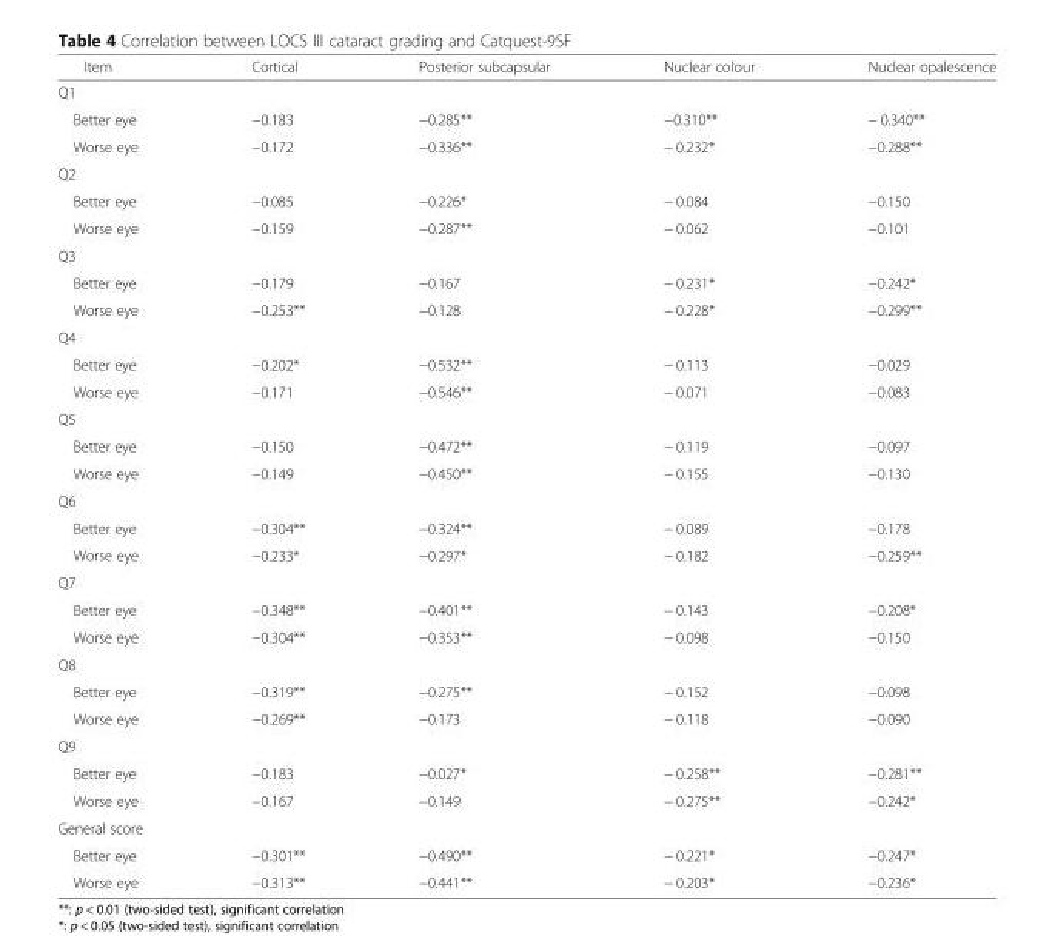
<table><thead><tr><td>Item</td><td>Cortical</td><td>Posterior subcapsular</td><td>Nuclear colour</td><td>Nuclear opalescence</td></tr></thead><tbody><tr><td colspan="5">Q1</td></tr><tr><td>Better eye</td><td>−0.183</td><td>−0.285**</td><td>−0.310**</td><td>− 0.340**</td></tr><tr><td>Worse eye</td><td>−0.172</td><td>−0.336**</td><td>− 0.232*</td><td>−0.288**</td></tr><tr><td colspan="5">Q2</td></tr><tr><td>Better eye</td><td>−0.085</td><td>−0.226*</td><td>− 0.084</td><td>−0.150</td></tr><tr><td>Worse eye</td><td>−0.159</td><td>−0.287**</td><td>− 0.062</td><td>−0.101</td></tr><tr><td colspan="5">Q3</td></tr><tr><td>Better eye</td><td>−0.179</td><td>−0.167</td><td>− 0.231*</td><td>−0.242*</td></tr><tr><td>Worse eye</td><td>−0.253**</td><td>−0.128</td><td>− 0.228*</td><td>−0.299**</td></tr><tr><td colspan="5">Q4</td></tr><tr><td>Better eye</td><td>−0.202*</td><td>−0.532**</td><td>− 0.113</td><td>−0.029</td></tr><tr><td>Worse eye</td><td>−0.171</td><td>−0.546**</td><td>− 0.071</td><td>−0.083</td></tr><tr><td colspan="5">Q5</td></tr><tr><td>Better eye</td><td>−0.150</td><td>−0.472**</td><td>− 0.119</td><td>−0.097</td></tr><tr><td>Worse eye</td><td>−0.149</td><td>−0.450**</td><td>− 0.155</td><td>−0.130</td></tr><tr><td colspan="5">Q6</td></tr><tr><td>Better eye</td><td>−0.304**</td><td>−0.324**</td><td>− 0.089</td><td>−0.178</td></tr><tr><td>Worse eye</td><td>−0.233*</td><td>−0.297*</td><td>− 0.182</td><td>−0.259**</td></tr><tr><td colspan="5">Q7</td></tr><tr><td>Better eye</td><td>−0.348**</td><td>−0.401**</td><td>− 0.143</td><td>−0.208*</td></tr><tr><td>Worse eye</td><td>−0.304**</td><td>−0.353**</td><td>− 0.098</td><td>−0.150</td></tr><tr><td colspan="5">Q8</td></tr><tr><td>Better eye</td><td>−0.319**</td><td>−0.275**</td><td>− 0.152</td><td>−0.098</td></tr><tr><td>Worse eye</td><td>−0.269**</td><td>−0.173</td><td>− 0.118</td><td>−0.090</td></tr><tr><td colspan="5">Q9</td></tr><tr><td>Better eye</td><td>−0.183</td><td>−0.027*</td><td>− 0.258**</td><td>−0.281**</td></tr><tr><td>Worse eye</td><td>−0.167</td><td>−0.149</td><td>− 0.275**</td><td>−0.242*</td></tr><tr><td colspan="5">General score</td></tr><tr><td>Better eye</td><td>−0.301**</td><td>−0.490**</td><td>− 0.221*</td><td>−0.247*</td></tr><tr><td>Worse eye</td><td>−0.313**</td><td>−0.441**</td><td>− 0.203*</td><td>−0.236*</td></tr></tbody></table>